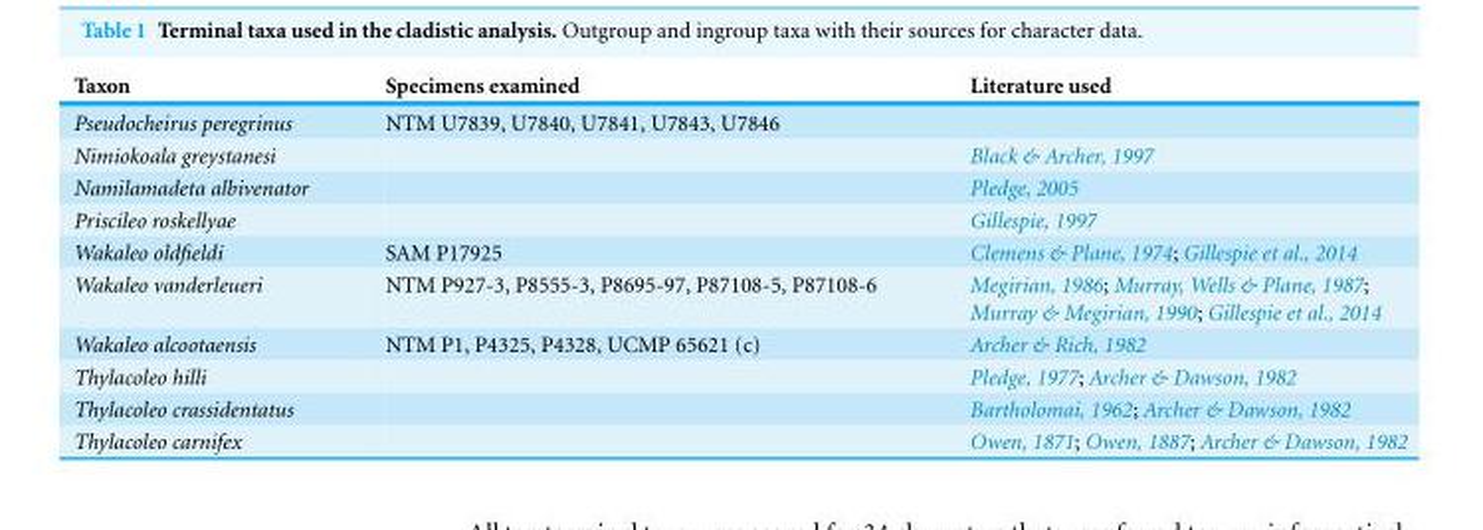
<table><thead><tr><td>Taxon</td><td>Specimens examined</td><td>Literature used</td></tr></thead><tbody><tr><td>Pseudocheirus peregrinus</td><td>NTM U7839, U7840, U7841, U7843, U7846</td><td></td></tr><tr><td>Nimiokoala greystanesi</td><td></td><td>Black &amp; Archer, 1997</td></tr><tr><td>Namilamadeta albivenator</td><td></td><td>Pledge, 2005</td></tr><tr><td>Priscileo roskellyae</td><td></td><td>Gillespie, 1997</td></tr><tr><td>Wakaleo oldfieldi</td><td>SAM P17925</td><td>Clemens &amp; Plane, 1974; Gillespie et al., 2014</td></tr><tr><td>Wakaleo vanderleueri</td><td>NTM P927-3, P8555-3, P8695-97, P87108-5, P87108-6</td><td>Megirian, 1986; Murray, Wells &amp; Plane, 1987; Murray &amp; Megirian, 1990; Gillespie et al., 2014</td></tr><tr><td>Wakaleo alcootaensis</td><td>NTM P1, P4325, P4328, UCMP 65621 (c)</td><td>Archer &amp; Rich, 1982</td></tr><tr><td>Thylacoleo hilli</td><td></td><td>Pledge, 1977; Archer &amp; Dawson, 1982</td></tr><tr><td>Thylacoleo crassidentatus</td><td></td><td>Bartholomai, 1962; Archer &amp; Dawson, 1982</td></tr><tr><td>Thylacoleo carnifex</td><td></td><td>Owen, 1871; Owen, 1887; Archer &amp; Dawson, 1982</td></tr></tbody></table>